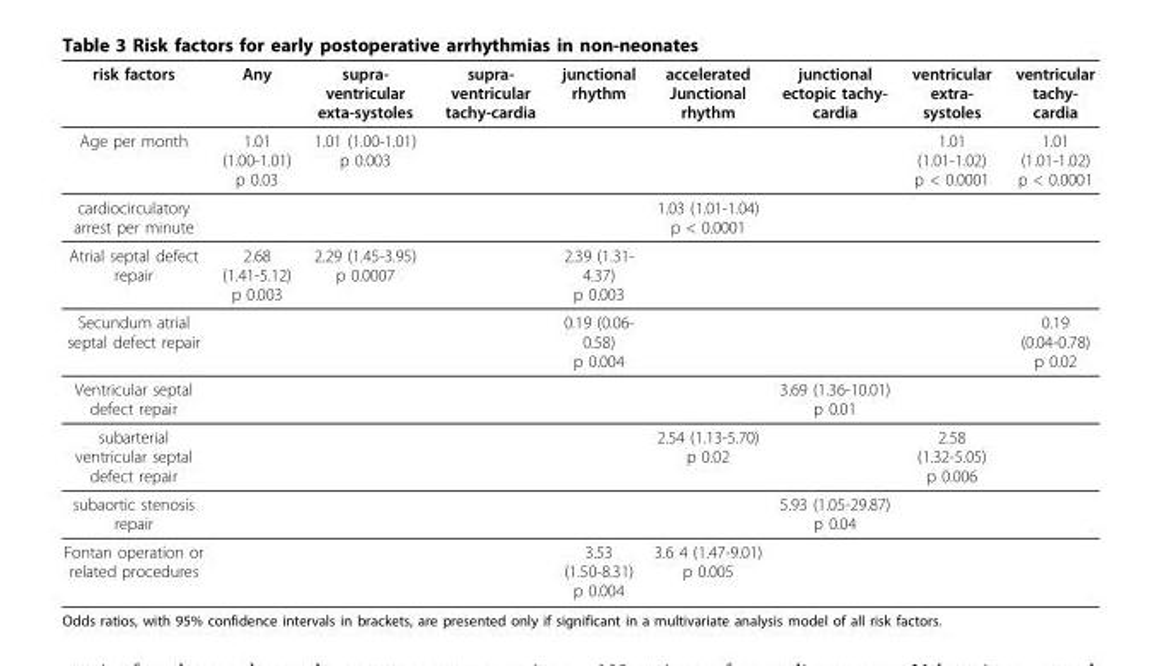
<table><thead><tr><td>risk factors</td><td>Any</td><td>supra- ventricular exta-systoles</td><td>supra- ventricular tachy-cardia</td><td>junctional rhythm</td><td>accelerated Junctional rhythm</td><td>junctional ectopic tachy- cardia</td><td>ventricular extra- systoles</td><td>ventricular tachy- cardia</td></tr></thead><tbody><tr><td>Age per month</td><td>1.01 (1.00-1.01) p 0.03</td><td>1.01 (1.00-1.01) p 0.003</td><td></td><td></td><td></td><td></td><td>1.01 (1.01-1.02) p &lt; 0.0001</td><td>1.01 (1.01-1.02) p &lt; 0.0001</td></tr><tr><td>cardiocirculatory arrest per minute</td><td></td><td></td><td></td><td></td><td>1.03 (1.01-1.04) p &lt; 0.0001</td><td></td><td></td><td></td></tr><tr><td>Atrial septal defect repair</td><td>2.68 (1.41-5.12) p 0.003</td><td>2.29 (1.45-3.95) p 0.0007</td><td></td><td>2.39 (1.31- 4.37) p 0.003</td><td></td><td></td><td></td><td></td></tr><tr><td>Secundum atrial septal defect repair</td><td></td><td></td><td></td><td>0.19 (0.06- 0.58) p 0.004</td><td></td><td></td><td></td><td>0.19 (0.04-0.78) p 0.02</td></tr><tr><td>Ventricular septal defect repair</td><td></td><td></td><td></td><td></td><td></td><td>3.69 (1.36-10.01) p 0.01</td><td></td><td></td></tr><tr><td>subarterial ventricular septal defect repair</td><td></td><td></td><td></td><td></td><td>2.54 (1.13-5.70) p 0.02</td><td></td><td>2.58 (1.32-5.05) p 0.006</td><td></td></tr><tr><td>subaortic stenosis repair</td><td></td><td></td><td></td><td></td><td></td><td>5.93 (1.05-29.87) p 0.04</td><td></td><td></td></tr><tr><td>Fontan operation or related procedures</td><td></td><td></td><td></td><td>3.53 (1.50-8.31) p 0.004</td><td>3.6 4 (1.47-9.01) p 0.005</td><td></td><td></td><td></td></tr></tbody></table>